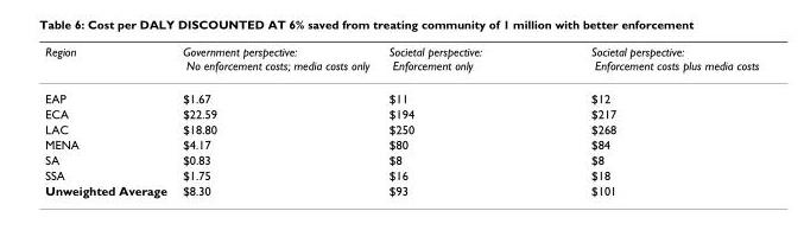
<table><thead><tr><td>Region</td><td>Government perspective: No enforcement costs; media costs only</td><td>Societal perspective: Enforcement only</td><td>Societal perspective: Enforcement costs plus media costs</td></tr></thead><tbody><tr><td>EAP</td><td>$1.67</td><td>$11</td><td>$12</td></tr><tr><td>ECA</td><td>$22.59</td><td>$194</td><td>$217</td></tr><tr><td>LAC</td><td>$18.80</td><td>$250</td><td>$268</td></tr><tr><td>MENA</td><td>$4.17</td><td>$80</td><td>$84</td></tr><tr><td>SA</td><td>$0.83</td><td>$8</td><td>$8</td></tr><tr><td>SSA</td><td>$1.75</td><td>$16</td><td>$18</td></tr><tr><td>Unweighted Average</td><td>$8.30</td><td>$93</td><td>$101</td></tr></tbody></table>